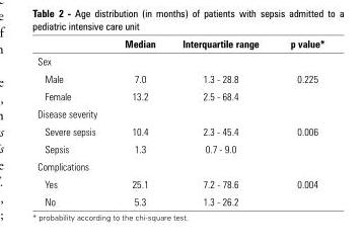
<table><thead><tr><td></td><td>Median</td><td>Interquartile range</td><td>p value*</td></tr></thead><tbody><tr><td colspan="4">Sex</td></tr><tr><td>Male</td><td>7.0</td><td>1.3 - 28.8</td><td rowspan="2">0.225</td></tr><tr><td>Female</td><td>13.2</td><td>2.5 - 68.4</td></tr><tr><td colspan="4">Disease severity</td></tr><tr><td>Severe sepsis</td><td>10.4</td><td>2.3 - 45.4</td><td rowspan="2">0.006</td></tr><tr><td>Sepsis</td><td>1.3</td><td>0.7 - 9.0</td></tr><tr><td colspan="4">Complications</td></tr><tr><td>Yes</td><td>25.1</td><td>7.2 - 78.6</td><td rowspan="2">0.004</td></tr><tr><td>No</td><td>5.3</td><td>1.3 - 26.2</td></tr></tbody></table>